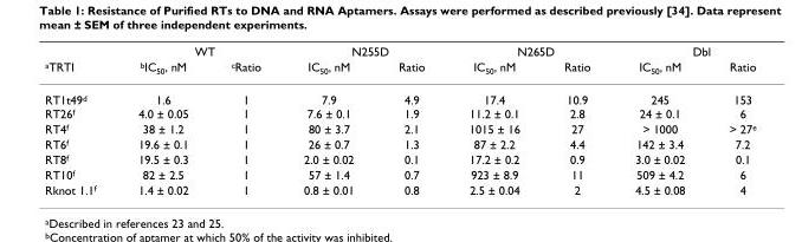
<table><thead><tr><td rowspan="2"><sup>a</sup>TRTI</td><td colspan="2">WT</td><td colspan="2">N255D</td><td colspan="2">N265D</td><td colspan="2">Dbl</td></tr><tr><td><sup>b</sup>IC<sub>50</sub>, nM</td><td><sup>c</sup>Ratio</td><td>IC<sub>50</sub>, nM</td><td>Ratio</td><td>IC<sub>50</sub>, nM</td><td>Ratio</td><td>IC<sub>50</sub>, nM</td><td>Ratio</td></tr></thead><tbody><tr><td>RT1t49<sup>d</sup> RT26<sup>f</sup></td><td>1.6 4.0 ± 0.05</td><td>1 1</td><td>7.9 7.6 ± 0.1</td><td>4.9 1.9</td><td>17.4 11.2 ± 0.1</td><td>10.9 2.8</td><td>245 24 ± 0.1</td><td>153 6</td></tr><tr><td>RT4<sup>f</sup></td><td>38 ± 1.2</td><td>1</td><td>80 ± 3.7</td><td>2.1</td><td>1015 ± 16</td><td>27</td><td>&gt; 1000</td><td>&gt; 27<sup>e</sup></td></tr><tr><td>RT6<sup>f</sup></td><td>19.6 ± 0.1</td><td>1</td><td>26 ± 0.7</td><td>1.3</td><td>87 ± 2.2</td><td>4.4</td><td>142 ± 3.4</td><td>7.2</td></tr><tr><td>RT8<sup>f</sup></td><td>19.5 ± 0.3</td><td>1</td><td>2.0 ± 0.02</td><td>0.1</td><td>17.2 ± 0.2</td><td>0.9</td><td>3.0 ± 0.02</td><td>0.1</td></tr><tr><td>RT10<sup>f</sup></td><td>82 ± 2.5</td><td>1</td><td>57 ± 1.4</td><td>0.7</td><td>923 ± 8.9</td><td>11</td><td>509 ± 4.2</td><td>6</td></tr><tr><td>Rknot 1.1<sup>f</sup></td><td>1.4 ± 0.02</td><td>1</td><td>0.8 ± 0.01</td><td>0.8</td><td>2.5 ± 0.04</td><td>2</td><td>4.5 ± 0.08</td><td>4</td></tr></tbody></table>